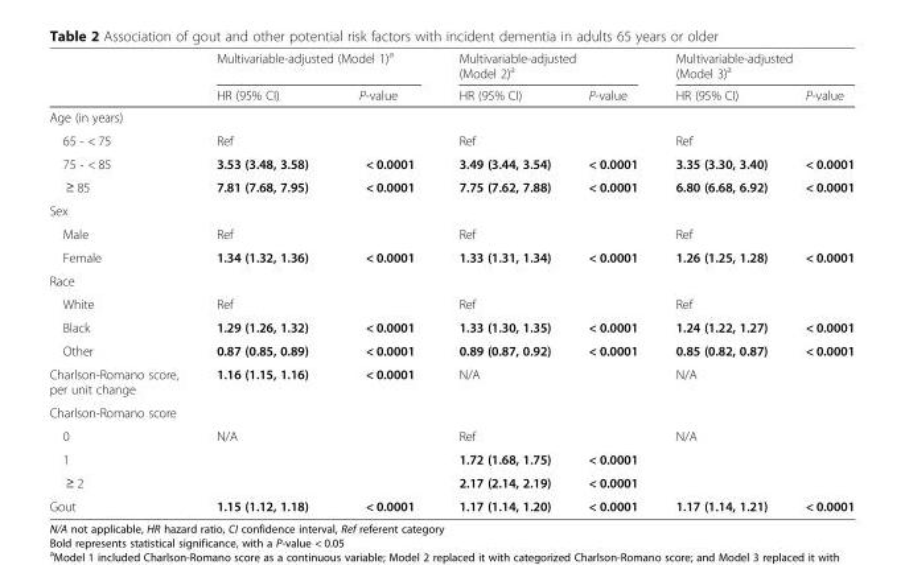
<table><thead><tr><td rowspan="2"></td><td colspan="2">Multivariable-adjusted (Model 1)<sup>a</sup></td><td colspan="2">Multivariable-adjusted (Model 2)<sup>a</sup></td><td colspan="2">Multivariable-adjusted (Model 3)<sup>a</sup></td></tr><tr><td>HR (95% CI)</td><td>P-value</td><td>HR (95% CI)</td><td>P-value</td><td>HR (95% CI)</td><td>P-value</td></tr></thead><tbody><tr><td colspan="7">Age (in years)</td></tr><tr><td>65 - &lt; 75</td><td>Ref</td><td></td><td>Ref</td><td></td><td>Ref</td><td></td></tr><tr><td>75 - &lt; 85</td><td>3.53 (3.48, 3.58)</td><td>&lt; 0.0001</td><td>3.49 (3.44, 3.54)</td><td>&lt; 0.0001</td><td>3.35 (3.30, 3.40)</td><td>&lt; 0.0001</td></tr><tr><td>≥ 85</td><td>7.81 (7.68, 7.95)</td><td>&lt; 0.0001</td><td>7.75 (7.62, 7.88)</td><td>&lt; 0.0001</td><td>6.80 (6.68, 6.92)</td><td>&lt; 0.0001</td></tr><tr><td colspan="7">Sex</td></tr><tr><td>Male</td><td>Ref</td><td></td><td>Ref</td><td></td><td>Ref</td><td></td></tr><tr><td>Female</td><td>1.34 (1.32, 1.36)</td><td>&lt; 0.0001</td><td>1.33 (1.31, 1.34)</td><td>&lt; 0.0001</td><td>1.26 (1.25, 1.28)</td><td>&lt; 0.0001</td></tr><tr><td colspan="7">Race</td></tr><tr><td>White</td><td>Ref</td><td></td><td>Ref</td><td></td><td>Ref</td><td></td></tr><tr><td>Black</td><td>1.29 (1.26, 1.32)</td><td>&lt; 0.0001</td><td>1.33 (1.30, 1.35)</td><td>&lt; 0.0001</td><td>1.24 (1.22, 1.27)</td><td>&lt; 0.0001</td></tr><tr><td>Other</td><td>0.87 (0.85, 0.89)</td><td>&lt; 0.0001</td><td>0.89 (0.87, 0.92)</td><td>&lt; 0.0001</td><td>0.85 (0.82, 0.87)</td><td>&lt; 0.0001</td></tr><tr><td>Charlson-Romano score, per unit change</td><td>1.16 (1.15, 1.16)</td><td>&lt; 0.0001</td><td>N/A</td><td></td><td>N/A</td><td></td></tr><tr><td colspan="7">Charlson-Romano score</td></tr><tr><td>0</td><td>N/A</td><td></td><td>Ref</td><td></td><td>N/A</td><td></td></tr><tr><td>1</td><td></td><td></td><td>1.72 (1.68, 1.75)</td><td>&lt; 0.0001</td><td></td><td></td></tr><tr><td>≥ 2</td><td></td><td></td><td>2.17 (2.14, 2.19)</td><td>&lt; 0.0001</td><td></td><td></td></tr><tr><td>Gout</td><td>1.15 (1.12, 1.18)</td><td>&lt; 0.0001</td><td>1.17 (1.14, 1.20)</td><td>&lt; 0.0001</td><td>1.17 (1.14, 1.21)</td><td>&lt; 0.0001</td></tr></tbody></table>